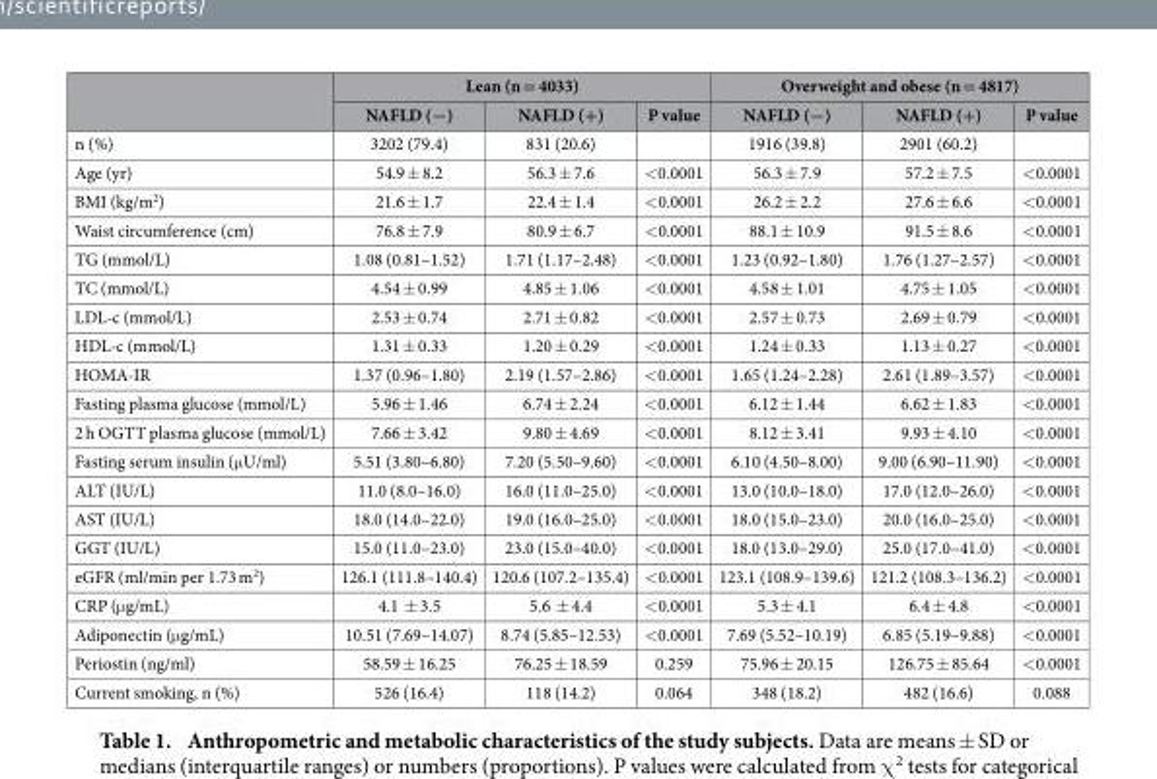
<table><thead><tr><td rowspan="2"></td><td colspan="3">Lean (n = 4033)</td><td colspan="3">Overweight and obese (n = 4817)</td></tr><tr><td>NAFLD (−)</td><td>NAFLD (+)</td><td>P value</td><td>NAFLD (−)</td><td>NAFLD (+)</td><td>P value</td></tr></thead><tbody><tr><td>n (%)</td><td>3202 (79.4)</td><td>831 (20.6)</td><td></td><td>1916 (39.8)</td><td>2901 (60.2)</td><td></td></tr><tr><td>Age (yr)</td><td>54.9 ± 8.2</td><td>56.3 ± 7.6</td><td>&lt; 0.0001</td><td>56.3 ± 7.9</td><td>57.2 ± 7.5</td><td>&lt; 0.0001</td></tr><tr><td>BMI (kg/m<sup>2</sup>)</td><td>21.6 ± 1.7</td><td>22.4 ± 1.4</td><td>&lt; 0.0001</td><td>26.2 ± 2.2</td><td>27.6 ± 6.6</td><td>&lt; 0.0001</td></tr><tr><td>Waist circumference (cm)</td><td>76.8 ± 7.9</td><td>80.9 ± 6.7</td><td>&lt; 0.0001</td><td>88.1 ± 10.9</td><td>91.5 ± 8.6</td><td>&lt; 0.0001</td></tr><tr><td>TG (mmol/L)</td><td>1.08 (0.81–1.52)</td><td>1.71 (1.17–2.48)</td><td>&lt; 0.0001</td><td>1.23 (0.92–1.80)</td><td>1.76 (1.27–2.57)</td><td>&lt; 0.0001</td></tr><tr><td>TC (mmol/L)</td><td>4.54 ± 0.99</td><td>4.85 ± 1.06</td><td>&lt; 0.0001</td><td>4.58 ± 1.01</td><td>4.75 ± 1.05</td><td>&lt; 0.0001</td></tr><tr><td>LDL-c (mmol/L)</td><td>2.53 ± 0.74</td><td>2.71 ± 0.82</td><td>&lt; 0.0001</td><td>2.57 ± 0.73</td><td>2.69 ± 0.79</td><td>&lt; 0.0001</td></tr><tr><td>HDL-c (mmol/L)</td><td>1.31 ± 0.33</td><td>1.20 ± 0.29</td><td>&lt; 0.0001</td><td>1.24 ± 0.33</td><td>1.13 ± 0.27</td><td>&lt; 0.0001</td></tr><tr><td>HOMA-IR</td><td>1.37 (0.96–1.80)</td><td>2.19 (1.57–2.86)</td><td>&lt; 0.0001</td><td>1.65 (1.24–2.28)</td><td>2.61 (1.89–3.57)</td><td>&lt; 0.0001</td></tr><tr><td>Fasting plasma glucose (mmol/L)</td><td>5.96 ± 1.46</td><td>6.74 ± 2.24</td><td>&lt; 0.0001</td><td>6.12 ± 1.44</td><td>6.62 ± 1.83</td><td>&lt; 0.0001</td></tr><tr><td>2 h OGTT plasma glucose (mmol/L)</td><td>7.66 ± 3.42</td><td>9.80 ± 4.69</td><td>&lt; 0.0001</td><td>8.12 ± 3.41</td><td>9.93 ± 4.10</td><td>&lt; 0.0001</td></tr><tr><td>Fasting serum insulin (μ U/ml)</td><td>5.51 (3.80–6.80)</td><td>7.20 (5.50–9.60)</td><td>&lt; 0.0001</td><td>6.10 (4.50–8.00)</td><td>9.00 (6.90–11.90)</td><td>&lt; 0.0001</td></tr><tr><td>ALT (IU/L)</td><td>11.0 (8.0–16.0)</td><td>16.0 (11.0–25.0)</td><td>&lt; 0.0001</td><td>13.0 (10.0–18.0)</td><td>17.0 (12.0–26.0)</td><td>&lt; 0.0001</td></tr><tr><td>AST (IU/L)</td><td>18.0 (14.0–22.0)</td><td>19.0 (16.0–25.0)</td><td>&lt; 0.0001</td><td>18.0 (15.0–23.0)</td><td>20.0 (16.0–25.0)</td><td>&lt; 0.0001</td></tr><tr><td>GGT (IU/L)</td><td>15.0 (11.0–23.0)</td><td>23.0 (15.0–40.0)</td><td>&lt; 0.0001</td><td>18.0 (13.0–29.0)</td><td>25.0 (17.0–41.0)</td><td>&lt; 0.0001</td></tr><tr><td>eGFR (ml/min per 1.73 m<sup>2</sup>)</td><td>126.1 (111.8–140.4)</td><td>120.6 (107.2–135.4)</td><td>&lt; 0.0001</td><td>123.1 (108.9–139.6)</td><td>121.2 (108.3–136.2)</td><td>&lt; 0.0001</td></tr><tr><td>CRP (μ g/mL)</td><td>4.1 ± 3.5</td><td>5.6 ± 4.4</td><td>&lt; 0.0001</td><td>5.3 ± 4.1</td><td>6.4 ± 4.8</td><td>&lt; 0.0001</td></tr><tr><td>Adiponectin (μ g/mL)</td><td>10.51 (7.69–14.07)</td><td>8.74 (5.85–12.53)</td><td>&lt; 0.0001</td><td>7.69 (5.52–10.19)</td><td>6.85 (5.19–9.88)</td><td>&lt; 0.0001</td></tr><tr><td>Periostin (ng/ml)</td><td>58.59 ± 16.25</td><td>76.25 ± 18.59</td><td>0.259</td><td>75.96 ± 20.15</td><td>126.75 ± 85.64</td><td>&lt; 0.0001</td></tr><tr><td>Current smoking, n (%)</td><td>526 (16.4)</td><td>118 (14.2)</td><td>0.064</td><td>348 (18.2)</td><td>482 (16.6)</td><td>0.088</td></tr></tbody></table>